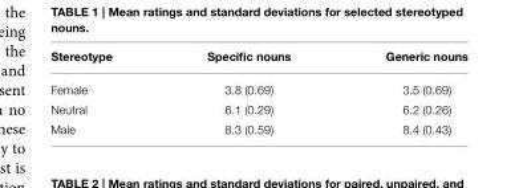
<table><thead><tr><td>Stereotype</td><td>Specific nouns</td><td>Generic nouns</td></tr></thead><tbody><tr><td>Female</td><td>3.8 (0.69)</td><td>3.5 (0.69)</td></tr><tr><td>Neutral</td><td>6.1 (0.29)</td><td>6.2 (0.26)</td></tr><tr><td>Male</td><td>8.3 (0.59)</td><td>8.4 (0.43)</td></tr></tbody></table>